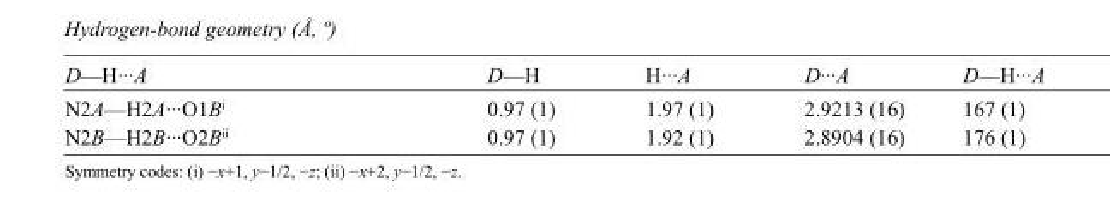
<table><tbody><tr><td>D—H···A</td><td>D—H</td><td>H···A</td><td>D···A</td><td>D—H···A</td></tr><tr><td>N2A—H2A···O1B<sup>i</sup></td><td>0.97 (1)</td><td>1.97 (1)</td><td>2.9213 (16)</td><td>167 (1)</td></tr><tr><td>N2B—H2B···O2B<sup>ii</sup></td><td>0.97 (1)</td><td>1.92 (1)</td><td>2.8904 (16)</td><td>176 (1)</td></tr></tbody></table>